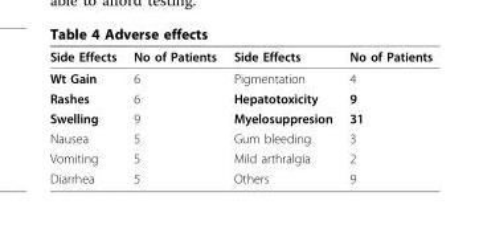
<table><thead><tr><td>Side Effects</td><td>No of Patients</td><td>Side Effects</td><td>No of Patients</td></tr></thead><tbody><tr><td>Wt Gain</td><td>6</td><td>Pigmentation</td><td>4</td></tr><tr><td>Rashes</td><td>6</td><td>Hepatotoxicity</td><td>9</td></tr><tr><td>Swelling</td><td>9</td><td>Myelosuppresion</td><td>31</td></tr><tr><td>Nausea</td><td>5</td><td>Gum bleeding</td><td>3</td></tr><tr><td>Vomiting</td><td>5</td><td>Mild arthralgia</td><td>2</td></tr><tr><td>Diarrhea</td><td>5</td><td>Others</td><td>9</td></tr></tbody></table>